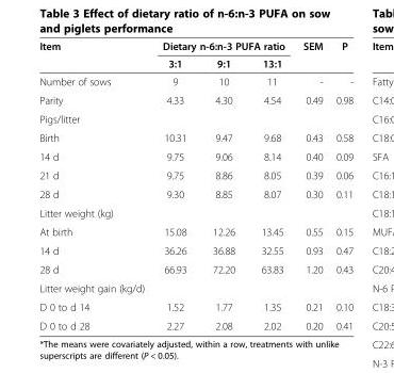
<table><thead><tr><td rowspan="2">Item</td><td colspan="3">Dietary n-6:n-3 PUFA ratio</td><td rowspan="2">SEM</td><td rowspan="2">P</td></tr><tr><td>3:1</td><td>9:1</td><td>13:1</td></tr></thead><tbody><tr><td>Number of sows</td><td>9</td><td>10</td><td>11</td><td>-</td><td>-</td></tr><tr><td>Parity</td><td>4.33</td><td>4.30</td><td>4.54</td><td>0.49</td><td>0.98</td></tr><tr><td colspan="6">Pigs/litter</td></tr><tr><td>Birth</td><td>10.31</td><td>9.47</td><td>9.68</td><td>0.43</td><td>0.58</td></tr><tr><td>14 d</td><td>9.75</td><td>9.06</td><td>8.14</td><td>0.40</td><td>0.09</td></tr><tr><td>21 d</td><td>9.75</td><td>8.86</td><td>8.05</td><td>0.39</td><td>0.06</td></tr><tr><td>28 d</td><td>9.30</td><td>8.85</td><td>8.07</td><td>0.30</td><td>0.11</td></tr><tr><td colspan="6">Litter weight (kg)</td></tr><tr><td>At birth</td><td>15.08</td><td>12.26</td><td>13.45</td><td>0.55</td><td>0.15</td></tr><tr><td>14 d</td><td>36.26</td><td>36.88</td><td>32.55</td><td>0.93</td><td>0.47</td></tr><tr><td>28 d</td><td>66.93</td><td>72.20</td><td>63.83</td><td>1.20</td><td>0.43</td></tr><tr><td colspan="6">Litter weight gain (kg/d)</td></tr><tr><td>D 0 to d 14</td><td>1.52</td><td>1.77</td><td>1.35</td><td>0.21</td><td>0.10</td></tr><tr><td>D 0 to d 28</td><td>2.27</td><td>2.08</td><td>2.02</td><td>0.20</td><td>0.41</td></tr></tbody></table>